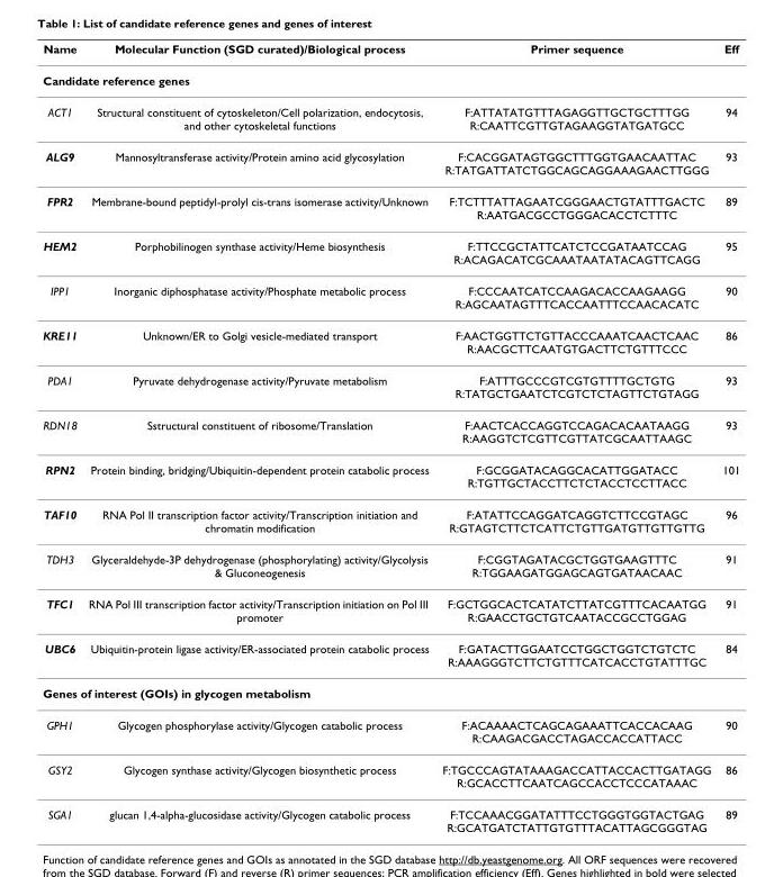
<table><thead><tr><td>Name</td><td>Molecular Function (SGD curated)/Biological process</td><td>Primer sequence</td><td>Eff</td></tr></thead><tbody><tr><td colspan="4">Candidate reference genes</td></tr><tr><td>ACT1</td><td>Structural constituent of cytoskeleton/Cell polarization, endocytosis, and other cytoskeletal functions</td><td>F:ATTATATGTTTAGAGGTTGCTGCTTTGG R:CAATTCGTTGTAGAAGGTATGATGCC</td><td>94</td></tr><tr><td>ALG9</td><td>Mannosyltransferase activity/Protein amino acid glycosylation</td><td>F:CACGGATAGTGGCTTTGGTGAACAATTAC R:TATGATTATCTGGCAGCAGGAAAGAACTTGGG</td><td>93</td></tr><tr><td>FPR2</td><td>Membrane-bound peptidyl-prolyl cis-trans isomerase activity/Unknown</td><td>F:TCTTTATTAGAATCGGGAACTGTATTTGACTC R:AATGACGCCTGGGACACCTCTTTC</td><td>89</td></tr><tr><td>HEM2</td><td>Porphobilinogen synthase activity/Heme biosynthesis</td><td>F:TTCCGCTATTCATCTCCGATAATCCAG R:ACAGACATCGCAAATAATATACAGTTCAGG</td><td>95</td></tr><tr><td>IPP1</td><td>Inorganic diphosphatase activity/Phosphate metabolic process</td><td>F:CCCAATCATCCAAGACACCAAGAAGG R:AGCAATAGTTTCACCAATTTCCAACACATC</td><td>90</td></tr><tr><td>KRE11</td><td>Unknown/ER to Golgi vesicle-mediated transport</td><td>F:AACTGGTTCTGTTACCCAAATCAACTCAAC R:AACGCTTCAATGTGACTTCTGTTTCCC</td><td>86</td></tr><tr><td>PDA1</td><td>Pyruvate dehydrogenase activity/Pyruvate metabolism</td><td>F:ATTTGCCCGTCGTGTTTTGCTGTG R:TATGCTGAATCTCGTCTCTAGTTCTGTAGG</td><td>93</td></tr><tr><td>RDN18</td><td>Sstructural constituent of ribosome/Translation</td><td>F:AACTCACCAGGTCCAGACACAATAAGG R:AAGGTCTCGTTCGTTATCGCAATTAAGC</td><td>93</td></tr><tr><td>RPN2</td><td>Protein binding, bridging/Ubiquitin-dependent protein catabolic process</td><td>F:GCGGATACAGGCACATTGGATACC R:TGTTGCTACCTTCTCTACCTCCTTACC</td><td>101</td></tr><tr><td>TAF10</td><td>RNA Pol II transcription factor activity/Transcription initiation and chromatin modification</td><td>F:ATATTCCAGGATCAGGTCTTCCGTAGC R:GTAGTCTTCTCATTCTGTTGATGTTGTTGTTG</td><td>96</td></tr><tr><td>TDH3</td><td>Glyceraldehyde-3P dehydrogenase (phosphorylating) activity/Glycolysis &amp; Gluconeogenesis</td><td>F:CGGTAGATACGCTGGTGAAGTTTC R:TGGAAGATGGAGCAGTGATAACAAC</td><td>91</td></tr><tr><td>TFC1</td><td>RNA Pol III transcription factor activity/Transcription initiation on Pol III promoter</td><td>F:GCTGGCACTCATATCTTATCGTTTCACAATGG R:GAACCTGCTGTCAATACCGCCTGGAG</td><td>91</td></tr><tr><td>UBC6</td><td>Ubiquitin-protein ligase activity/ER-associated protein catabolic process</td><td>F:GATACTTGGAATCCTGGCTGGTCTGTCTC R:AAAGGGTCTTCTGTTTCATCACCTGTATTTGC</td><td>84</td></tr><tr><td colspan="4">Genes of interest (GOIs) in glycogen metabolism</td></tr><tr><td>GPH1</td><td>Glycogen phosphorylase activity/Glycogen catabolic process</td><td>F:ACAAAACTCAGCAGAAATTCACCACAAG R:CAAGACGACCTAGACCACCATTACC</td><td>90</td></tr><tr><td>GSY2</td><td>Glycogen synthase activity/Glycogen biosynthetic process</td><td>F:TGCCCAGTATAAAGACCATTACCACTTGATAGG R:GCACCTTCAATCAGCCACCTCCCATAAAC</td><td>86</td></tr><tr><td>SGA1</td><td>glucan 1,4-alpha-glucosidase activity/Glycogen catabolic process</td><td>F:TCCAAACGGATATTTCCTGGGTGGTACTGAG R:GCATGATCTATTGTGTTTACATTAGCGGGTAG</td><td>89</td></tr></tbody></table>